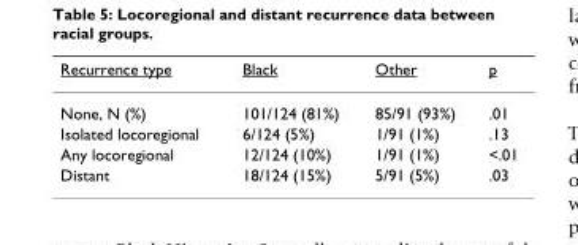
<table><thead><tr><td>Recurrence type</td><td>Black</td><td>Other</td><td>p</td></tr></thead><tbody><tr><td>None, N (%)</td><td>101/124 (81%)</td><td>85/91 (93%)</td><td>.01</td></tr><tr><td>Isolated locoregional</td><td>6/124 (5%)</td><td>1/91 (1%)</td><td>.13</td></tr><tr><td>Any locoregional</td><td>12/124 (10%)</td><td>1/91 (1%)</td><td>&lt;.01</td></tr><tr><td>Distant</td><td>18/124 (15%)</td><td>5/91 (5%)</td><td>.03</td></tr></tbody></table>